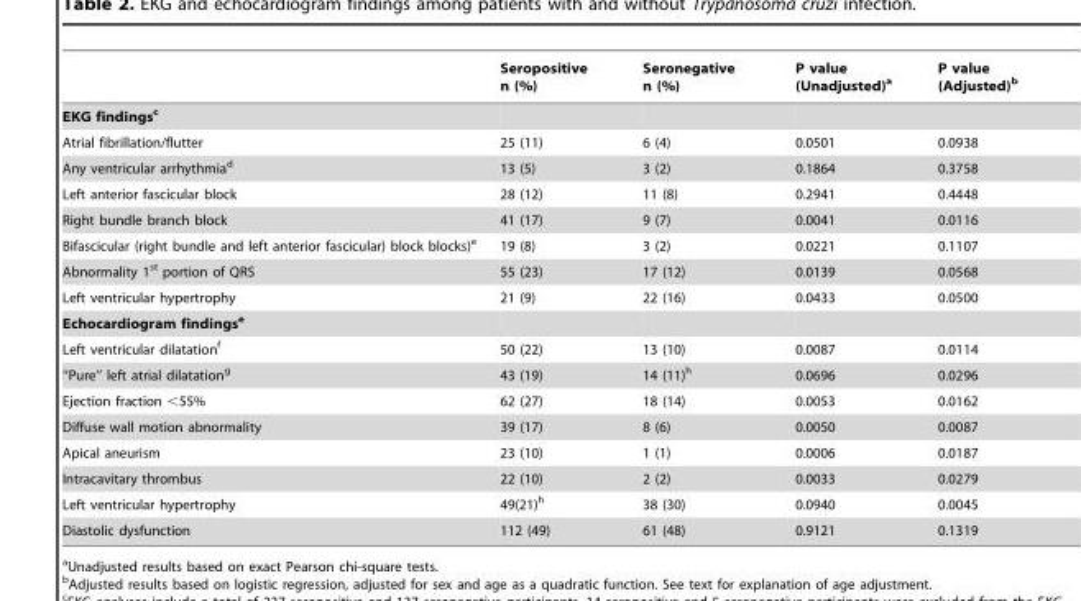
<table><thead><tr><td></td><td>Seropositive n (%)</td><td>Seronegative n (%)</td><td>P value (Unadjusted)<sup>a</sup></td><td>P value (Adjusted)<sup>b</sup></td></tr></thead><tbody><tr><td colspan="5">EKG findingsc</td></tr><tr><td>Atrial fibrillation/flutter</td><td>25 (11)</td><td>6 (4)</td><td>0.0501</td><td>0.0938</td></tr><tr><td>Any ventricular arrhythmia<sup>d</sup></td><td>13 (5)</td><td>3 (2)</td><td>0.1864</td><td>0.3758</td></tr><tr><td>Left anterior fascicular block</td><td>28 (12)</td><td>11 (8)</td><td>0.2941</td><td>0.4448</td></tr><tr><td>Right bundle branch block</td><td>41 (17)</td><td>9 (7)</td><td>0.0041</td><td>0.0116</td></tr><tr><td>Bifascicular (right bundle and left anterior fascicular) block blocks)<sup>e</sup></td><td>19 (8)</td><td>3 (2)</td><td>0.0221</td><td>0.1107</td></tr><tr><td>Abnormality 1<sup>st</sup> portion of QRS</td><td>55 (23)</td><td>17 (12)</td><td>0.0139</td><td>0.0568</td></tr><tr><td>Left ventricular hypertrophy</td><td>21 (9)</td><td>22 (16)</td><td>0.0433</td><td>0.0500</td></tr><tr><td colspan="5">Echocardiogram findingse</td></tr><tr><td>Left ventricular dilatation<sup>f</sup></td><td>50 (22)</td><td>13 (10)</td><td>0.0087</td><td>0.0114</td></tr><tr><td>‘‘Pure’’ left atrial dilatationg</td><td>43 (19)</td><td>14 (11)<sup>h</sup></td><td>0.0696</td><td>0.0296</td></tr><tr><td>Ejection fraction &lt;55%</td><td>62 (27)</td><td>18 (14)</td><td>0.0053</td><td>0.0162</td></tr><tr><td>Diffuse wall motion abnormality</td><td>39 (17)</td><td>8 (6)</td><td>0.0050</td><td>0.0087</td></tr><tr><td>Apical aneurism</td><td>23 (10)</td><td>1 (1)</td><td>0.0006</td><td>0.0187</td></tr><tr><td>Intracavitary thrombus</td><td>22 (10)</td><td>2 (2)</td><td>0.0033</td><td>0.0279</td></tr><tr><td>Left ventricular hypertrophy</td><td>49(21)<sup>h</sup></td><td>38 (30)</td><td>0.0940</td><td>0.0045</td></tr><tr><td>Diastolic dysfunction</td><td>112 (49)</td><td>61 (48)</td><td>0.9121</td><td>0.1319</td></tr></tbody></table>